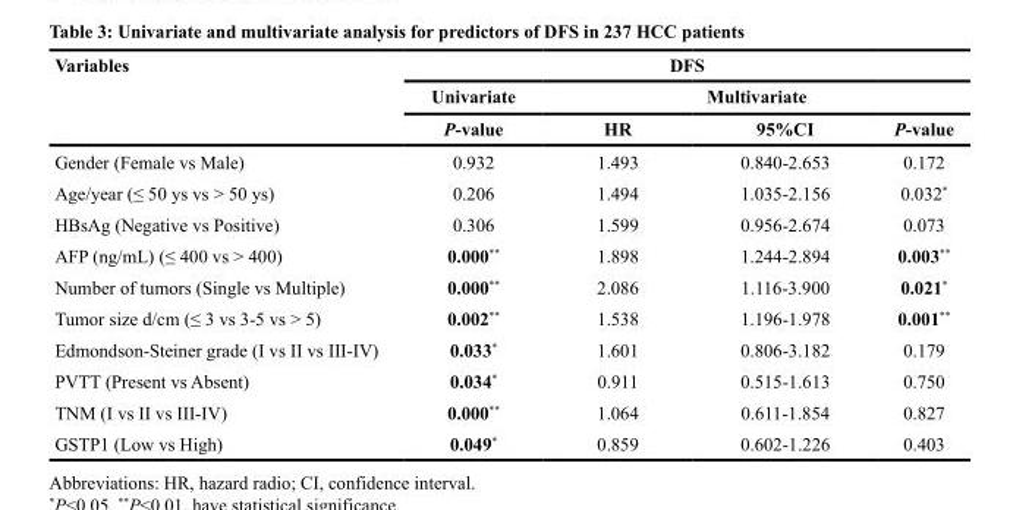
<table><thead><tr><td rowspan="3">Variables</td><td colspan="4">DFS</td></tr><tr><td rowspan="2">Univariate P-value</td><td colspan="3">Multivariate</td></tr><tr><td>HR</td><td>95%CI</td><td>P-value</td></tr></thead><tbody><tr><td>Gender (Female vs Male)</td><td>0.932</td><td>1.493</td><td>0.840-2.653</td><td>0.172</td></tr><tr><td>Age/year (≤ 50 ys vs &gt; 50 ys)</td><td>0.206</td><td>1.494</td><td>1.035-2.156</td><td>0.032*</td></tr><tr><td>HBsAg (Negative vs Positive)</td><td>0.306</td><td>1.599</td><td>0.956-2.674</td><td>0.073</td></tr><tr><td>AFP (ng/mL) (≤ 400 vs &gt; 400)</td><td>0.000**</td><td>1.898</td><td>1.244-2.894</td><td>0.003**</td></tr><tr><td>Number of tumors (Single vs Multiple)</td><td>0.000**</td><td>2.086</td><td>1.116-3.900</td><td>0.021*</td></tr><tr><td>Tumor size d/cm (≤ 3 vs 3-5 vs &gt; 5)</td><td>0.002**</td><td>1.538</td><td>1.196-1.978</td><td>0.001**</td></tr><tr><td>Edmondson-Steiner grade (I vs II vs III-IV)</td><td>0.033*</td><td>1.601</td><td>0.806-3.182</td><td>0.179</td></tr><tr><td>PVTT (Present vs Absent)</td><td>0.034*</td><td>0.911</td><td>0.515-1.613</td><td>0.750</td></tr><tr><td>TNM (I vs II vs III-IV)</td><td>0.000**</td><td>1.064</td><td>0.611-1.854</td><td>0.827</td></tr><tr><td>GSTP1 (Low vs High)</td><td>0.049*</td><td>0.859</td><td>0.602-1.226</td><td>0.403</td></tr></tbody></table>